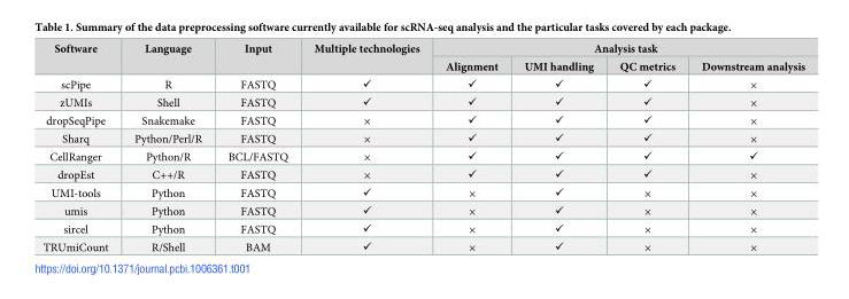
<table><thead><tr><td rowspan="2">Software</td><td rowspan="2">Language</td><td rowspan="2">Input</td><td rowspan="2">Multiple technologies</td><td colspan="4">Analysis task</td></tr><tr><td>Alignment</td><td>UMI handling</td><td>QC metrics</td><td>Downstream analysis</td></tr></thead><tbody><tr><td>scPipe</td><td>R</td><td>FASTQ</td><td>✓</td><td>✓</td><td>✓</td><td>✓</td><td>×</td></tr><tr><td>zUMIs</td><td>Shell</td><td>FASTQ</td><td>✓</td><td>✓</td><td>✓</td><td>✓</td><td>×</td></tr><tr><td>dropSeqPipe</td><td>Snakemake</td><td>FASTQ</td><td>×</td><td>✓</td><td>✓</td><td>✓</td><td>×</td></tr><tr><td>Sharq</td><td>Python/Perl/R</td><td>FASTQ</td><td>×</td><td>✓</td><td>✓</td><td>✓</td><td>×</td></tr><tr><td>CellRanger</td><td>Python/R</td><td>BCL/FASTQ</td><td>×</td><td>✓</td><td>✓</td><td>✓</td><td>✓</td></tr><tr><td>dropEst</td><td>C++/R</td><td>FASTQ</td><td>×</td><td>✓</td><td>✓</td><td>✓</td><td>×</td></tr><tr><td>UMI-tools</td><td>Python</td><td>FASTQ</td><td>✓</td><td>×</td><td>✓</td><td>×</td><td>×</td></tr><tr><td>umis</td><td>Python</td><td>FASTQ</td><td>✓</td><td>×</td><td>✓</td><td>×</td><td>×</td></tr><tr><td>sircel</td><td>Python</td><td>FASTQ</td><td>✓</td><td>×</td><td>✓</td><td>×</td><td>×</td></tr><tr><td>TRUmiCount</td><td>R/Shell</td><td>BAM</td><td>✓</td><td>×</td><td>✓</td><td>×</td><td>×</td></tr></tbody></table>